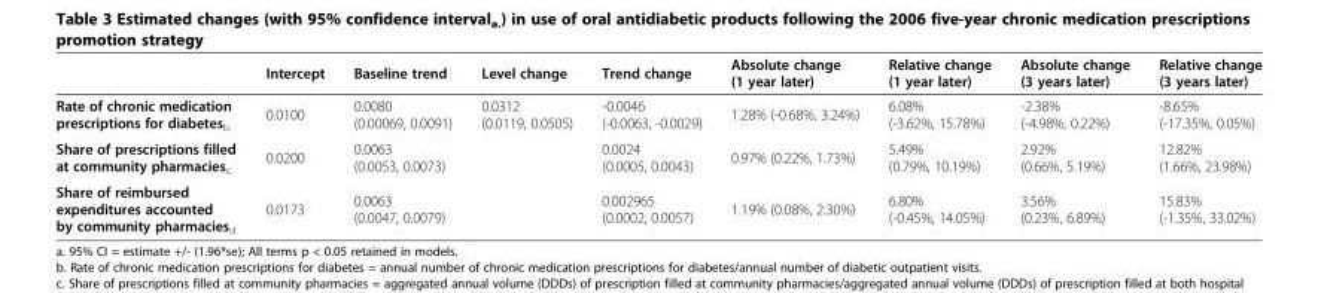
<table><thead><tr><td></td><td>Intercept</td><td>Baseline trend</td><td>Level change</td><td>Trend change</td><td>Absolute change (1 year later)</td><td>Relative change (1 year later)</td><td>Absolute change (3 years later)</td><td>Relative change (3 years later)</td></tr></thead><tbody><tr><td>Rate of chronic medication prescriptions for diabetes<sub>b.</sub></td><td>0.0100</td><td>0.0080 (0.00069, 0.0091)</td><td>0.0312 (0.0119, 0.0505)</td><td>-0.0046 (-0.0063, -0.0029)</td><td>1.28% (-0.68%, 3.24%)</td><td>6.08% (-3.62%, 15.78%)</td><td>-2.38% (-4.98%, 0.22%)</td><td>-8.65% (-17.35%, 0.05%)</td></tr><tr><td>Share of prescriptions filled at community pharmacies<sub>c.</sub></td><td>0.0200</td><td>0.0063 (0.0053, 0.0073)</td><td></td><td>0.0024 (0.0005, 0.0043)</td><td>0.97% (0.22%, 1.73%)</td><td>5.49% (0.79%, 10.19%)</td><td>2.92% (0.66%, 5.19%)</td><td>12.82% (1.66%, 23.98%)</td></tr><tr><td>Share of reimbursed expenditures accounted by community pharmacies<sub>d.</sub></td><td>0.0173</td><td>0.0063 (0.0047, 0.0079)</td><td></td><td>0.002965 (0.0002, 0.0057)</td><td>1.19% (0.08%, 2.30%)</td><td>6.80% (-0.45%, 14.05%)</td><td>3.56% (0.23%, 6.89%)</td><td>15.83% (-1.35%, 33.02%)</td></tr></tbody></table>